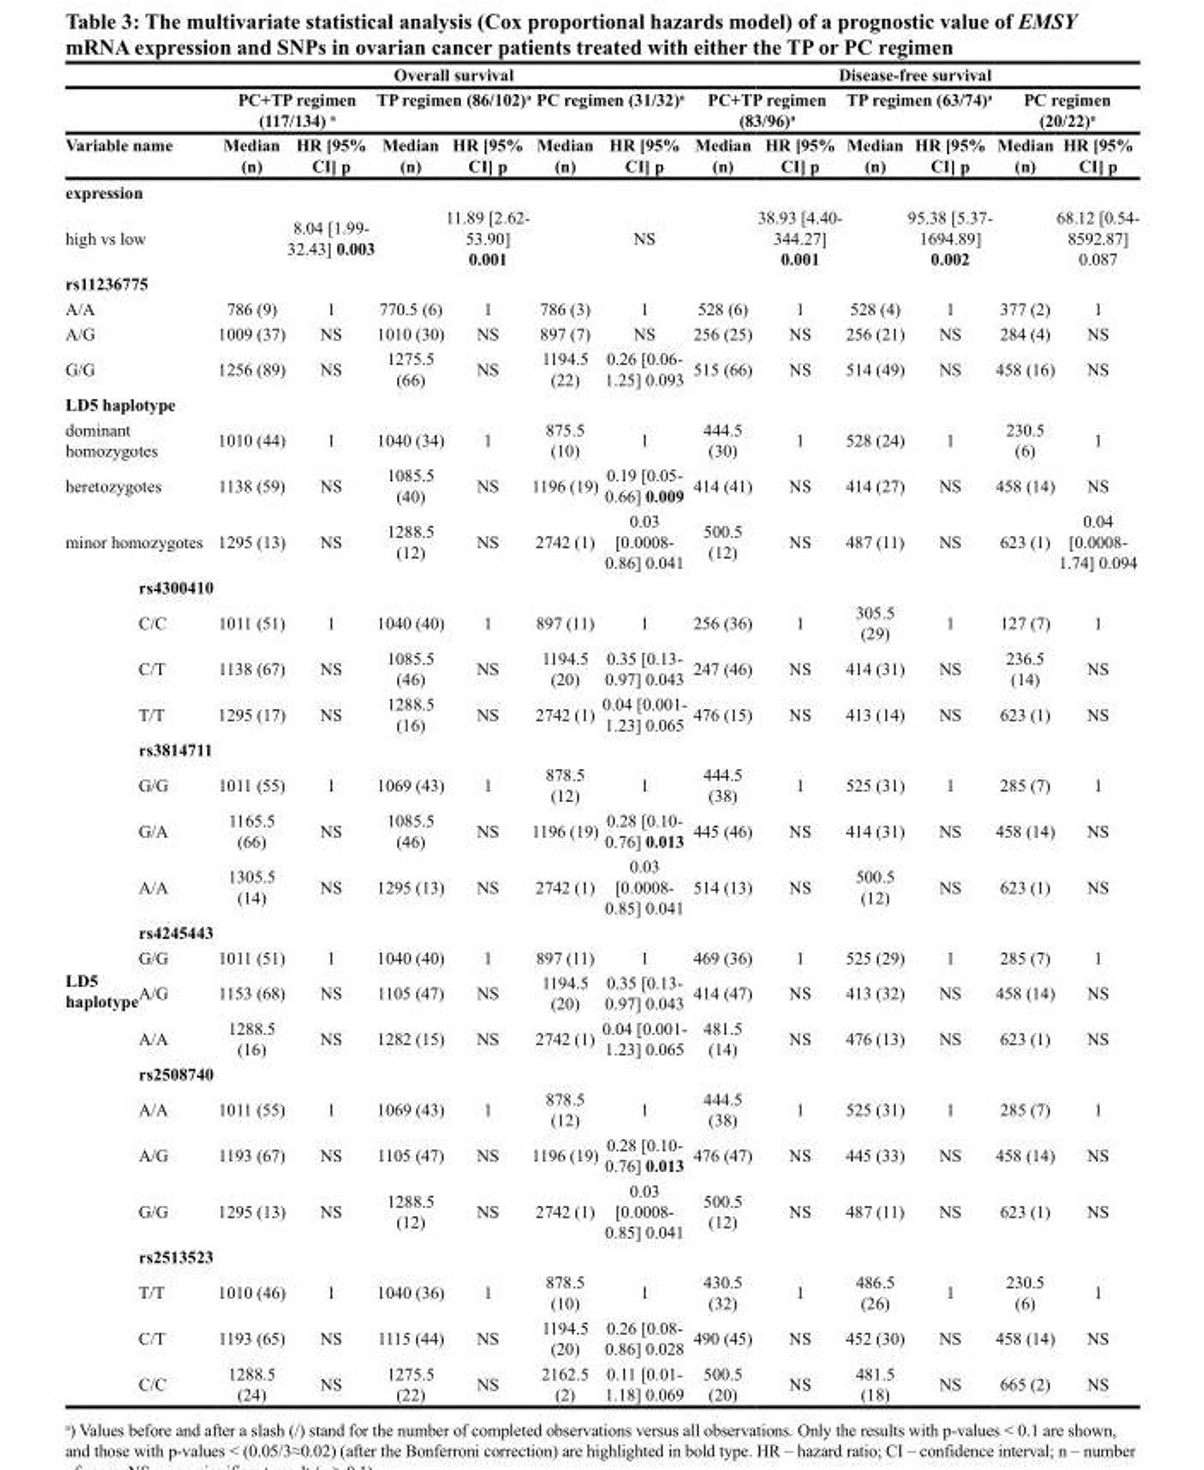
<table><thead><tr><td rowspan="2"></td><td rowspan="2"></td><td colspan="6">Overall survival</td><td colspan="6">Disease-free survival</td></tr><tr><td colspan="2">PC+TP regimen (117/134) <sup>a</sup></td><td colspan="2">TP regimen (86/102)<sup>a</sup></td><td colspan="2">PC regimen (31/32)<sup>a</sup></td><td colspan="2">PC+TP regimen (83/96)<sup>a</sup></td><td colspan="2">TP regimen (63/74)<sup>a</sup></td><td colspan="2">PC regimen (20/22)<sup>a</sup></td></tr><tr><td colspan="2">Variable name</td><td>Median (n)</td><td>HR [95% CI] p</td><td>Median (n)</td><td>HR [95% CI] p</td><td>Median (n)</td><td>HR [95% CI] p</td><td>Median (n)</td><td>HR [95% CI] p</td><td>Median (n)</td><td>HR [95% CI] p</td><td>Median (n)</td><td>HR [95% CI] p</td></tr></thead><tbody><tr><td colspan="14">expression</td></tr><tr><td colspan="2">high vs low</td><td></td><td>8.04 [1.99- 32.43] 0.003</td><td></td><td>11.89 [2.62- 53.90] 0.001</td><td></td><td>NS</td><td></td><td>38.93 [4.40- 344.27] 0.001</td><td></td><td>95.38 [5.37- 1694.89] 0.002</td><td></td><td>68.12 [0.54- 8592.87] 0.087</td></tr><tr><td colspan="14">rs11236775</td></tr><tr><td colspan="2">A/A</td><td>786 (9)</td><td>1</td><td>770.5 (6)</td><td>1</td><td>786 (3)</td><td>1</td><td>528 (6)</td><td>1</td><td>528 (4)</td><td>1</td><td>377 (2)</td><td>1</td></tr><tr><td colspan="2">A/G</td><td>1009 (37)</td><td>NS</td><td>1010 (30)</td><td>NS</td><td>897 (7)</td><td>NS</td><td>256 (25)</td><td>NS</td><td>256 (21)</td><td>NS</td><td>284 (4)</td><td>NS</td></tr><tr><td colspan="2">G/G</td><td>1256 (89)</td><td>NS</td><td>1275.5 (66)</td><td>NS</td><td>1194.5 (22)</td><td>0.26 [0.06- 1.25] 0.093</td><td>515 (66)</td><td>NS</td><td>514 (49)</td><td>NS</td><td>458 (16)</td><td>NS</td></tr><tr><td colspan="14">LD5 haplotype</td></tr><tr><td colspan="2">dominant homozygotes</td><td>1010 (44)</td><td>1</td><td>1040 (34)</td><td>1</td><td>875.5 (10)</td><td>1</td><td>444.5 (30)</td><td>1</td><td>528 (24)</td><td>1</td><td>230.5 (6)</td><td>1</td></tr><tr><td colspan="2">heretozygotes</td><td>1138 (59)</td><td>NS</td><td>1085.5 (40)</td><td>NS</td><td>1196 (19)</td><td>0.19 [0.05- 0.66] 0.009</td><td>414 (41)</td><td>NS</td><td>414 (27)</td><td>NS</td><td>458 (14)</td><td>NS</td></tr><tr><td colspan="2">minor homozygotes</td><td>1295 (13)</td><td>NS</td><td>1288.5 (12)</td><td>NS</td><td>2742 (1)</td><td>0.03 [0.0008- 0.86] 0.041</td><td>500.5 (12)</td><td>NS</td><td>487 (11)</td><td>NS</td><td>623 (1)</td><td>0.04 [0.0008- 1.74] 0.094</td></tr><tr><td rowspan="20">LD5 haplotype</td><td>rs4300410</td><td></td><td></td><td></td><td></td><td></td><td></td><td></td><td></td><td></td><td></td><td></td><td></td></tr><tr><td>C/C</td><td>1011 (51)</td><td>1</td><td>1040 (40)</td><td>1</td><td>897 (11)</td><td>1</td><td>256 (36)</td><td>1</td><td>305.5 (29)</td><td>1</td><td>127 (7)</td><td>1</td></tr><tr><td>C/T</td><td>1138 (67)</td><td>NS</td><td>1085.5 (46)</td><td>NS</td><td>1194.5 (20)</td><td>0.35 [0.13- 0.97] 0.043</td><td>247 (46)</td><td>NS</td><td>414 (31)</td><td>NS</td><td>236.5 (14)</td><td>NS</td></tr><tr><td>T/T</td><td>1295 (17)</td><td>NS</td><td>1288.5 (16)</td><td>NS</td><td>2742 (1)</td><td>0.04 [0.001- 1.23] 0.065</td><td>476 (15)</td><td>NS</td><td>413 (14)</td><td>NS</td><td>623 (1)</td><td>NS</td></tr><tr><td>rs3814711</td><td></td><td></td><td></td><td></td><td></td><td></td><td></td><td></td><td></td><td></td><td></td><td></td></tr><tr><td>G/G</td><td>1011 (55)</td><td>1</td><td>1069 (43)</td><td>1</td><td>878.5 (12)</td><td>1</td><td>444.5 (38)</td><td>1</td><td>525 (31)</td><td>1</td><td>285 (7)</td><td>1</td></tr><tr><td>G/A</td><td>1165.5 (66)</td><td>NS</td><td>1085.5 (46)</td><td>NS</td><td>1196 (19)</td><td>0.28 [0.10- 0.76] 0.013</td><td>445 (46)</td><td>NS</td><td>414 (31)</td><td>NS</td><td>458 (14)</td><td>NS</td></tr><tr><td>A/A</td><td>1305.5 (14)</td><td>NS</td><td>1295 (13)</td><td>NS</td><td>2742 (1)</td><td>0.03 [0.0008- 0.85] 0.041</td><td>514 (13)</td><td>NS</td><td>500.5 (12)</td><td>NS</td><td>623 (1)</td><td>NS</td></tr><tr><td>rs4245443</td><td></td><td></td><td></td><td></td><td></td><td></td><td></td><td></td><td></td><td></td><td></td><td></td></tr><tr><td>G/G</td><td>1011 (51)</td><td>1</td><td>1040 (40)</td><td>1</td><td>897 (11)</td><td>1</td><td>469 (36)</td><td>1</td><td>525 (29)</td><td>1</td><td>285 (7)</td><td>1</td></tr><tr><td>A/G</td><td>1153 (68)</td><td>NS</td><td>1105 (47)</td><td>NS</td><td>1194.5 (20)</td><td>0.35 [0.13- 0.97] 0.043</td><td>414 (47)</td><td>NS</td><td>413 (32)</td><td>NS</td><td>458 (14)</td><td>NS</td></tr><tr><td>A/A</td><td>1288.5 (16)</td><td>NS</td><td>1282 (15)</td><td>NS</td><td>2742 (1)</td><td>0.04 [0.001- 1.23] 0.065</td><td>481.5 (14)</td><td>NS</td><td>476 (13)</td><td>NS</td><td>623 (1)</td><td>NS</td></tr><tr><td>rs2508740</td><td></td><td></td><td></td><td></td><td></td><td></td><td></td><td></td><td></td><td></td><td></td><td></td></tr><tr><td>A/A</td><td>1011 (55)</td><td>1</td><td>1069 (43)</td><td>1</td><td>878.5 (12)</td><td>1</td><td>444.5 (38)</td><td>1</td><td>525 (31)</td><td>1</td><td>285 (7)</td><td>1</td></tr><tr><td>A/G</td><td>1193 (67)</td><td>NS</td><td>1105 (47)</td><td>NS</td><td>1196 (19)</td><td>0.28 [0.10- 0.76] 0.013</td><td>476 (47)</td><td>NS</td><td>445 (33)</td><td>NS</td><td>458 (14)</td><td>NS</td></tr><tr><td>G/G</td><td>1295 (13)</td><td>NS</td><td>1288.5 (12)</td><td>NS</td><td>2742 (1)</td><td>0.03 [0.0008- 0.85] 0.041</td><td>500.5 (12)</td><td>NS</td><td>487 (11)</td><td>NS</td><td>623 (1)</td><td>NS</td></tr><tr><td>rs2513523</td><td></td><td></td><td></td><td></td><td></td><td></td><td></td><td></td><td></td><td></td><td></td><td></td></tr><tr><td>T/T</td><td>1010 (46)</td><td>1</td><td>1040 (36)</td><td>1</td><td>878.5 (10)</td><td>1</td><td>430.5 (32)</td><td>1</td><td>486.5 (26)</td><td>1</td><td>230.5 (6)</td><td>1</td></tr><tr><td>C/T</td><td>1193 (65)</td><td>NS</td><td>1115 (44)</td><td>NS</td><td>1194.5 (20)</td><td>0.26 [0.08- 0.86] 0.028</td><td>490 (45)</td><td>NS</td><td>452 (30)</td><td>NS</td><td>458 (14)</td><td>NS</td></tr><tr><td>C/C</td><td>1288.5 (24)</td><td>NS</td><td>1275.5 (22)</td><td>NS</td><td>2162.5 (2)</td><td>0.11 [0.01- 1.18] 0.069</td><td>500.5 (20)</td><td>NS</td><td>481.5 (18)</td><td>NS</td><td>665 (2)</td><td>NS</td></tr></tbody></table>